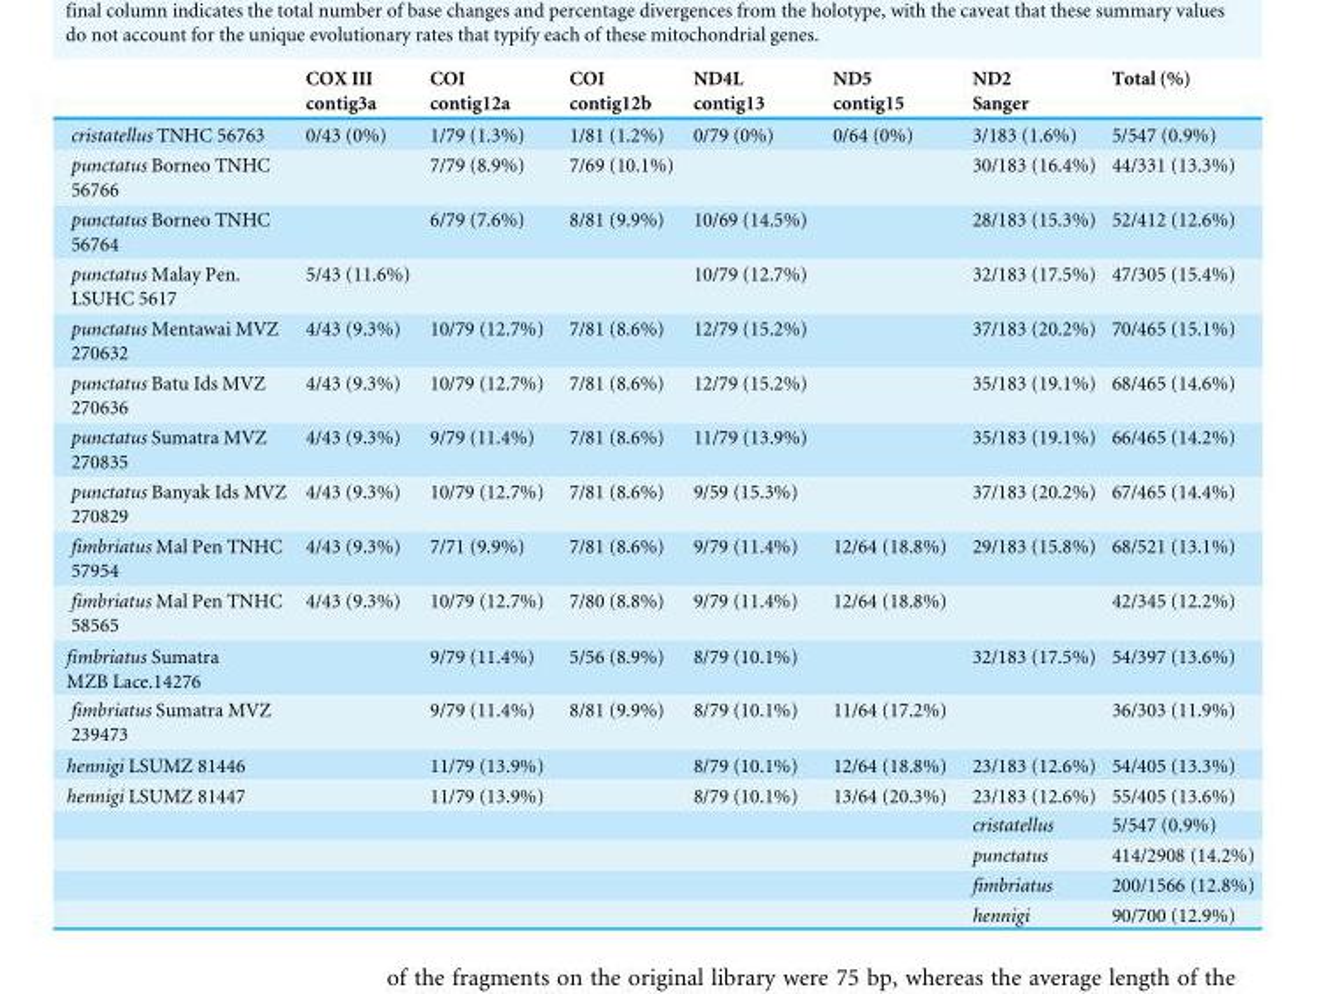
<table><thead><tr><td rowspan="2"></td><td rowspan="2">COX III contig3a</td><td rowspan="2">COI contig12a</td><td rowspan="2">COI contig12b</td><td rowspan="2">ND4L contig13</td><td rowspan="2">ND5 contig15</td><td rowspan="2">ND2 Sanger</td><td rowspan="2">Total (%)</td></tr><tr></tr></thead><tbody><tr><td>cristatellus TNHC 56763</td><td>0/43 (0%)</td><td>1/79 (1.3%)</td><td>1/81 (1.2%)</td><td>0/79 (0%)</td><td>0/64 (0%)</td><td>3/183 (1.6%)</td><td>5/547 (0.9%)</td></tr><tr><td>punctatus Borneo TNHC 56766</td><td></td><td>7/79 (8.9%)</td><td>7/69 (10.1%)</td><td></td><td></td><td>30/183 (16.4%)</td><td>44/331 (13.3%)</td></tr><tr><td>punctatus Borneo TNHC 56764</td><td></td><td>6/79 (7.6%)</td><td>8/81 (9.9%)</td><td>10/69 (14.5%)</td><td></td><td>28/183 (15.3%)</td><td>52/412 (12.6%)</td></tr><tr><td>punctatus Malay Pen. LSUHC 5617</td><td>5/43 (11.6%)</td><td></td><td></td><td>10/79 (12.7%)</td><td></td><td>32/183 (17.5%)</td><td>47/305 (15.4%)</td></tr><tr><td>punctatus Mentawai MVZ 270632</td><td>4/43 (9.3%)</td><td>10/79 (12.7%)</td><td>7/81 (8.6%)</td><td>12/79 (15.2%)</td><td></td><td>37/183 (20.2%)</td><td>70/465 (15.1%)</td></tr><tr><td>punctatus Batu Ids MVZ 270636</td><td>4/43 (9.3%)</td><td>10/79 (12.7%)</td><td>7/81 (8.6%)</td><td>12/79 (15.2%)</td><td></td><td>35/183 (19.1%)</td><td>68/465 (14.6%)</td></tr><tr><td>punctatus Sumatra MVZ 270835</td><td>4/43 (9.3%)</td><td>9/79 (11.4%)</td><td>7/81 (8.6%)</td><td>11/79 (13.9%)</td><td></td><td>35/183 (19.1%)</td><td>66/465 (14.2%)</td></tr><tr><td>punctatus Banyak Ids MVZ 270829</td><td>4/43 (9.3%)</td><td>10/79 (12.7%)</td><td>7/81 (8.6%)</td><td>9/59 (15.3%)</td><td></td><td>37/183 (20.2%)</td><td>67/465 (14.4%)</td></tr><tr><td>fimbriatus Mal Pen TNHC 57954</td><td>4/43 (9.3%)</td><td>7/71 (9.9%)</td><td>7/81 (8.6%)</td><td>9/79 (11.4%)</td><td>12/64 (18.8%)</td><td>29/183 (15.8%)</td><td>68/521 (13.1%)</td></tr><tr><td>fimbriatus Mal Pen TNHC 58565</td><td>4/43 (9.3%)</td><td>10/79 (12.7%)</td><td>7/80 (8.8%)</td><td>9/79 (11.4%)</td><td>12/64 (18.8%)</td><td></td><td>42/345 (12.2%)</td></tr><tr><td colspan="2">fimbriatus Sumatra MZB Lace.14276</td><td>9/79 (11.4%)</td><td>5/56 (8.9%)</td><td>8/79 (10.1%)</td><td></td><td>32/183 (17.5%)</td><td>54/397 (13.6%)</td></tr><tr><td>fimbriatus Sumatra MVZ 239473</td><td></td><td>9/79 (11.4%)</td><td>8/81 (9.9%)</td><td>8/79 (10.1%)</td><td>11/64 (17.2%)</td><td></td><td>36/303 (11.9%)</td></tr><tr><td colspan="2">hennigi LSUMZ 81446</td><td>11/79 (13.9%)</td><td></td><td>8/79 (10.1%)</td><td>12/64 (18.8%)</td><td>23/183 (12.6%)</td><td>54/405 (13.3%)</td></tr><tr><td colspan="2">hennigi LSUMZ 81447</td><td>11/79 (13.9%)</td><td></td><td>8/79 (10.1%)</td><td>13/64 (20.3%)</td><td>23/183 (12.6%)</td><td>55/405 (13.6%)</td></tr><tr><td></td><td></td><td></td><td></td><td></td><td></td><td>cristatellus</td><td>5/547 (0.9%)</td></tr><tr><td></td><td></td><td></td><td></td><td></td><td></td><td>punctatus</td><td>414/2908 (14.2%)</td></tr><tr><td></td><td></td><td></td><td></td><td></td><td></td><td>fimbriatus</td><td>200/1566 (12.8%)</td></tr><tr><td></td><td></td><td></td><td></td><td></td><td></td><td>hennigi</td><td>90/700 (12.9%)</td></tr></tbody></table>